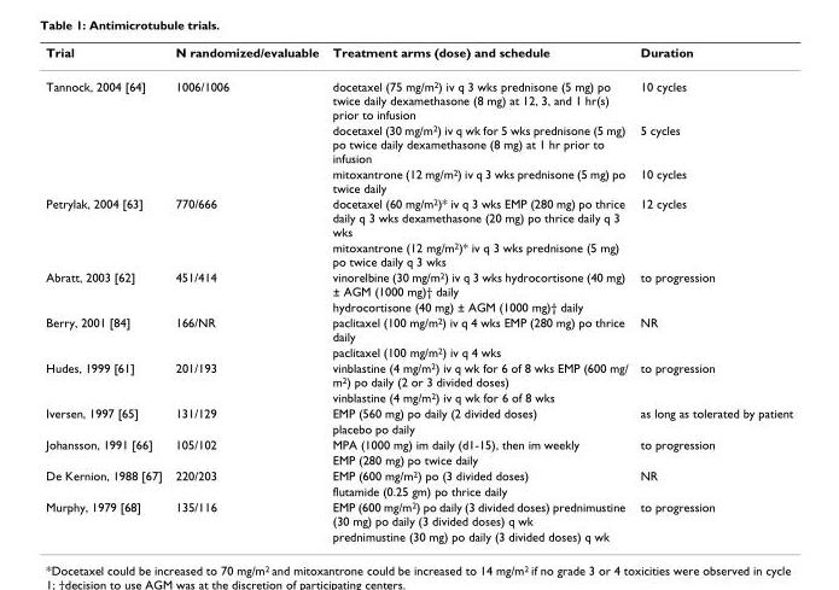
<table><thead><tr><td>Trial</td><td>N randomized/evaluable</td><td>Treatment arms (dose) and schedule</td><td>Duration</td></tr></thead><tbody><tr><td rowspan="3">Tannock, 2004 [64]</td><td>1006/1006</td><td>docetaxel (75 mg/m2) iv q 3 wks prednisone (5 mg) po twice daily dexamethasone (8 mg) at 12, 3, and 1 hr(s) prior to infusion</td><td>10 cycles</td></tr><tr><td></td><td>docetaxel (30 mg/m2) iv q wk for 5 wks prednisone (5 mg) po twice daily dexamethasone (8 mg) at 1 hr prior to infusion</td><td>5 cycles</td></tr><tr><td></td><td>mitoxantrone (12 mg/m2) iv q 3 wks prednisone (5 mg) po twice daily</td><td>10 cycles</td></tr><tr><td rowspan="2">Petrylak, 2004 [63]</td><td>770/666</td><td>docetaxel (60 mg/m2)* iv q 3 wks EMP (280 mg) po thrice daily q 3 wks dexamethasone (20 mg) po thrice daily q 3 wks</td><td>12 cycles</td></tr><tr><td></td><td>mitoxantrone (12 mg/m2)* iv q 3 wks prednisone (5 mg) po twice daily q 3 wks</td><td></td></tr><tr><td rowspan="2">Abratt, 2003 [62]</td><td>451/414</td><td>vinorelbine (30 mg/m2) iv q 3 wks hydrocortisone (40 mg) ± AGM (1000 mg)† daily</td><td>to progression</td></tr><tr><td></td><td>hydrocortisone (40 mg) ± AGM (1000 mg)† daily</td><td></td></tr><tr><td rowspan="2">Berry, 2001 [84]</td><td>166/NR</td><td>paclitaxel (100 mg/m2) iv q 4 wks EMP (280 mg) po thrice daily</td><td>NR</td></tr><tr><td></td><td>paclitaxel (100 mg/m2) iv q 4 wks</td><td></td></tr><tr><td rowspan="2">Hudes, 1999 [61]</td><td>201/193</td><td>vinblastine (4 mg/m2) iv q wk for 6 of 8 wks EMP (600 mg/ m2) po daily (2 or 3 divided doses)</td><td>to progression</td></tr><tr><td></td><td>vinblastine (4 mg/m2) iv q wk for 6 of 8 wks</td><td></td></tr><tr><td rowspan="2">Iversen, 1997 [65]</td><td>131/129</td><td>EMP (560 mg) po daily (2 divided doses)</td><td>as long as tolerated by patient</td></tr><tr><td></td><td>placebo po daily</td><td></td></tr><tr><td rowspan="2">Johansson, 1991 [66]</td><td>105/102</td><td>MPA (1000 mg) im daily (d1-15), then im weekly</td><td>to progression</td></tr><tr><td></td><td>EMP (280 mg) po twice daily</td><td></td></tr><tr><td rowspan="2">De Kernion, 1988 [67]</td><td>220/203</td><td>EMP (600 mg/m2) po (3 divided doses)</td><td>NR</td></tr><tr><td></td><td>flutamide (0.25 gm) po thrice daily</td><td></td></tr><tr><td rowspan="2">Murphy, 1979 [68]</td><td>135/116</td><td>EMP (600 mg/m2) po daily (3 divided doses) prednimustine (30 mg) po daily (3 divided doses) q wk</td><td>to progression</td></tr><tr><td></td><td>prednimustine (30 mg) po daily (3 divided doses) q wk</td><td></td></tr></tbody></table>